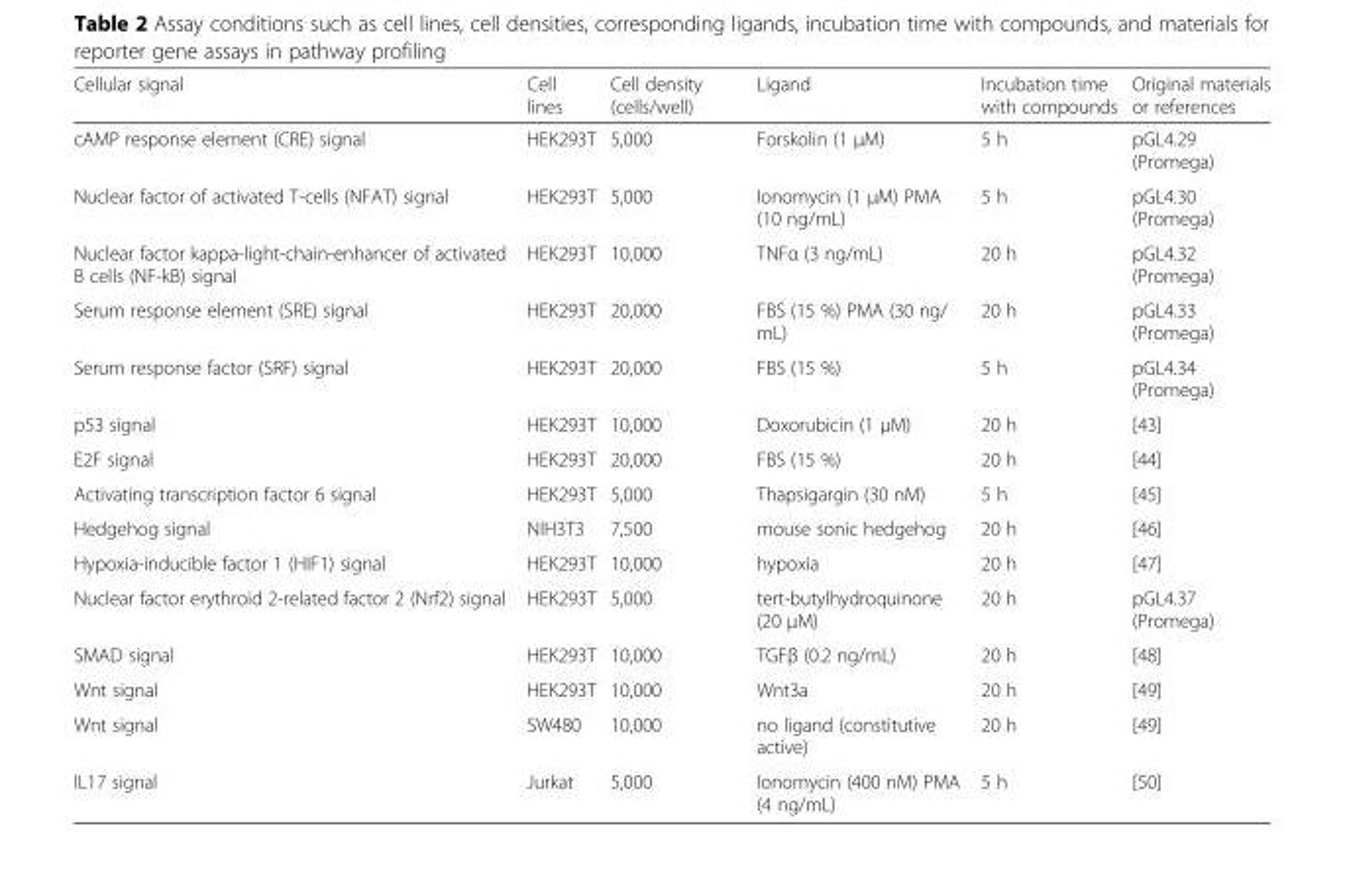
<table><thead><tr><td>Cellular signal</td><td>Cell lines</td><td>Cell density (cells/well)</td><td>Ligand</td><td>Incubation time with compounds</td><td>Original materials or references</td></tr></thead><tbody><tr><td>cAMP response element (CRE) signal</td><td>HEK293T</td><td>5,000</td><td>Forskolin (1 μM)</td><td>5 h</td><td>pGL4.29 (Promega)</td></tr><tr><td>Nuclear factor of activated T-cells (NFAT) signal</td><td>HEK293T</td><td>5,000</td><td>Ionomycin (1 μM) PMA (10 ng/mL)</td><td>5 h</td><td>pGL4.30 (Promega)</td></tr><tr><td>Nuclear factor kappa-light-chain-enhancer of activated B cells (NF-kB) signal</td><td>HEK293T</td><td>10,000</td><td>TNFα (3 ng/mL)</td><td>20 h</td><td>pGL4.32 (Promega)</td></tr><tr><td>Serum response element (SRE) signal</td><td>HEK293T</td><td>20,000</td><td>FBS (15 %) PMA (30 ng/ mL)</td><td>20 h</td><td>pGL4.33 (Promega)</td></tr><tr><td>Serum response factor (SRF) signal</td><td>HEK293T</td><td>20,000</td><td>FBS (15 %)</td><td>5 h</td><td>pGL4.34 (Promega)</td></tr><tr><td>p53 signal</td><td>HEK293T</td><td>10,000</td><td>Doxorubicin (1 μM)</td><td>20 h</td><td>[43]</td></tr><tr><td>E2F signal</td><td>HEK293T</td><td>20,000</td><td>FBS (15 %)</td><td>20 h</td><td>[44]</td></tr><tr><td>Activating transcription factor 6 signal</td><td>HEK293T</td><td>5,000</td><td>Thapsigargin (30 nM)</td><td>5 h</td><td>[45]</td></tr><tr><td>Hedgehog signal</td><td>NIH3T3</td><td>7,500</td><td>mouse sonic hedgehog</td><td>20 h</td><td>[46]</td></tr><tr><td>Hypoxia-inducible factor 1 (HIF1) signal</td><td>HEK293T</td><td>10,000</td><td>hypoxia</td><td>20 h</td><td>[47]</td></tr><tr><td>Nuclear factor erythroid 2-related factor 2 (Nrf2) signal</td><td>HEK293T</td><td>5,000</td><td>tert-butylhydroquinone (20 μM)</td><td>20 h</td><td>pGL4.37 (Promega)</td></tr><tr><td>SMAD signal</td><td>HEK293T</td><td>10,000</td><td>TGFβ (0.2 ng/mL)</td><td>20 h</td><td>[48]</td></tr><tr><td>Wnt signal</td><td>HEK293T</td><td>10,000</td><td>Wnt3a</td><td>20 h</td><td>[49]</td></tr><tr><td>Wnt signal</td><td>SW480</td><td>10,000</td><td>no ligand (constitutive active)</td><td>20 h</td><td>[49]</td></tr><tr><td>IL17 signal</td><td>Jurkat</td><td>5,000</td><td>Ionomycin (400 nM) PMA (4 ng/mL)</td><td>5 h</td><td>[50]</td></tr></tbody></table>